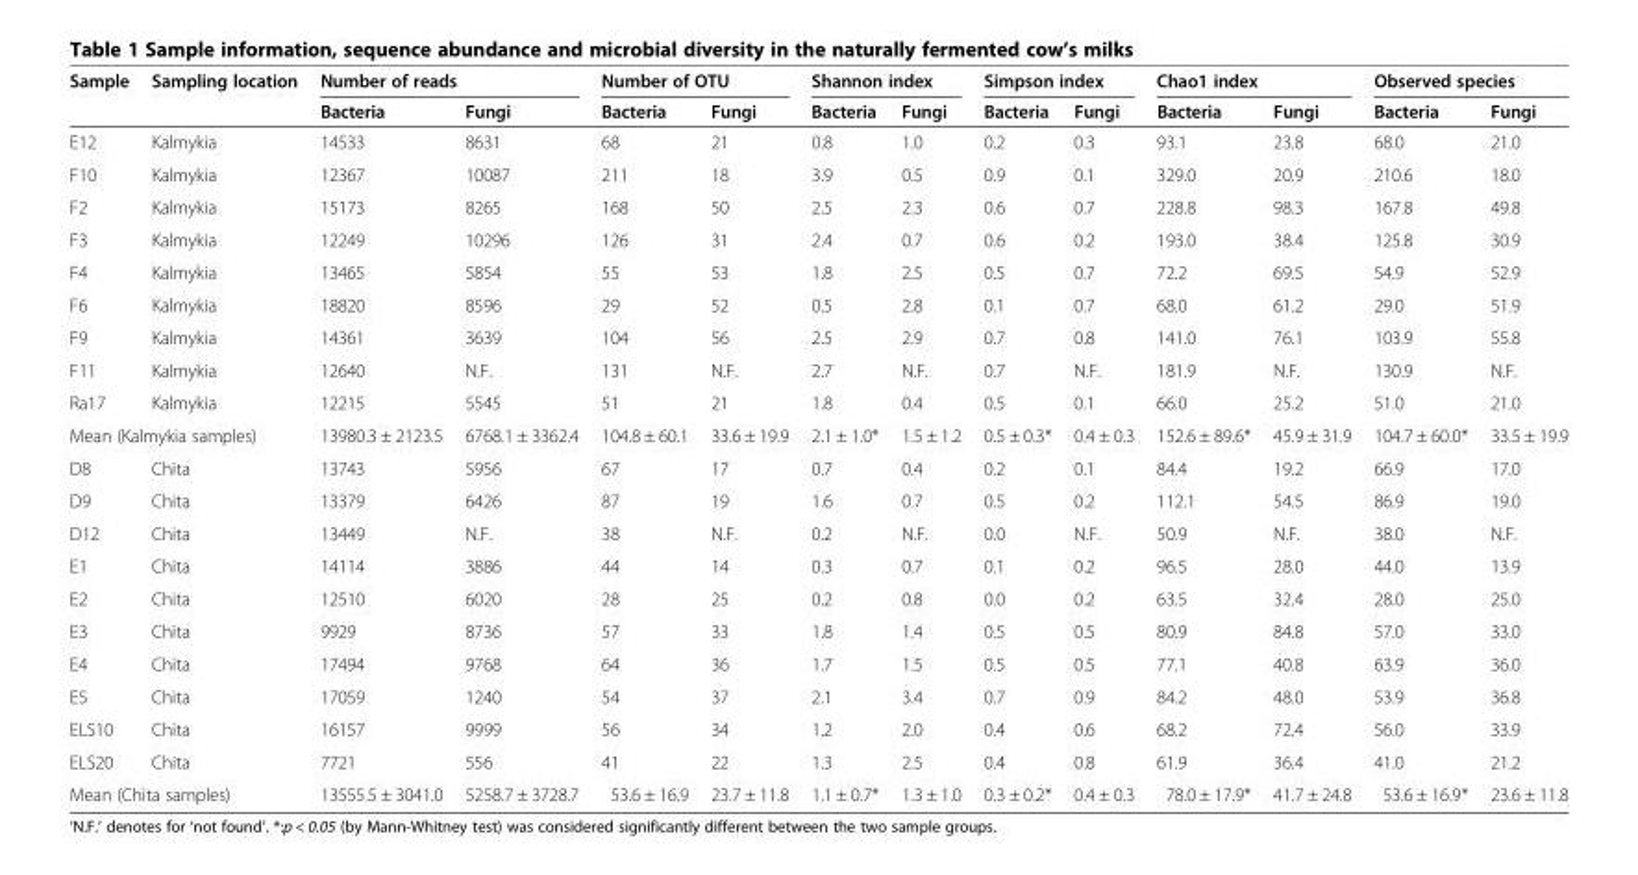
<table><thead><tr><td rowspan="2">Sample</td><td rowspan="2">Sampling location</td><td colspan="2">Number of reads</td><td colspan="2">Number of OTU</td><td colspan="2">Shannon index</td><td colspan="2">Simpson index</td><td colspan="2">Chao1 index</td><td colspan="2">Observed species</td></tr><tr><td>Bacteria</td><td>Fungi</td><td>Bacteria</td><td>Fungi</td><td>Bacteria</td><td>Fungi</td><td>Bacteria</td><td>Fungi</td><td>Bacteria</td><td>Fungi</td><td>Bacteria</td><td>Fungi</td></tr></thead><tbody><tr><td>E12</td><td>Kalmykia</td><td>14533</td><td>8631</td><td>68</td><td>21</td><td>0.8</td><td>1.0</td><td>0.2</td><td>0.3</td><td>93.1</td><td>23.8</td><td>68.0</td><td>21.0</td></tr><tr><td>F10</td><td>Kalmykia</td><td>12367</td><td>10087</td><td>211</td><td>18</td><td>3.9</td><td>0.5</td><td>0.9</td><td>0.1</td><td>329.0</td><td>20.9</td><td>210.6</td><td>18.0</td></tr><tr><td>F2</td><td>Kalmykia</td><td>15173</td><td>8265</td><td>168</td><td>50</td><td>2.5</td><td>2.3</td><td>0.6</td><td>0.7</td><td>228.8</td><td>98.3</td><td>167.8</td><td>49.8</td></tr><tr><td>F3</td><td>Kalmykia</td><td>12249</td><td>10296</td><td>126</td><td>31</td><td>2.4</td><td>0.7</td><td>0.6</td><td>0.2</td><td>193.0</td><td>38.4</td><td>125.8</td><td>30.9</td></tr><tr><td>F4</td><td>Kalmykia</td><td>13465</td><td>5854</td><td>55</td><td>53</td><td>1.8</td><td>2.5</td><td>0.5</td><td>0.7</td><td>72.2</td><td>69.5</td><td>54.9</td><td>52.9</td></tr><tr><td>F6</td><td>Kalmykia</td><td>18820</td><td>8596</td><td>29</td><td>52</td><td>0.5</td><td>2.8</td><td>0.1</td><td>0.7</td><td>68.0</td><td>61.2</td><td>29.0</td><td>51.9</td></tr><tr><td>F9</td><td>Kalmykia</td><td>14361</td><td>3639</td><td>104</td><td>56</td><td>2.5</td><td>2.9</td><td>0.7</td><td>0.8</td><td>141.0</td><td>76.1</td><td>103.9</td><td>55.8</td></tr><tr><td>F11</td><td>Kalmykia</td><td>12640</td><td>N.F.</td><td>131</td><td>N.F.</td><td>2.7</td><td>N.F.</td><td>0.7</td><td>N.F.</td><td>181.9</td><td>N.F.</td><td>130.9</td><td>N.F.</td></tr><tr><td>Ra17</td><td>Kalmykia</td><td>12215</td><td>5545</td><td>51</td><td>21</td><td>1.8</td><td>0.4</td><td>0.5</td><td>0.1</td><td>66.0</td><td>25.2</td><td>51.0</td><td>21.0</td></tr><tr><td colspan="2">Mean (Kalmykia samples)</td><td>13980.3 ± 2123.5</td><td>6768.1 ± 3362.4</td><td>104.8 ± 60.1</td><td>33.6 ± 19.9</td><td>2.1 ± 1.0*</td><td>1.5 ± 1.2</td><td>0.5 ± 0.3*</td><td>0.4 ± 0.3</td><td>152.6 ± 89.6*</td><td>45.9 ± 31.9</td><td>104.7 ± 60.0*</td><td>33.5 ± 19.9</td></tr><tr><td>D8</td><td>Chita</td><td>13743</td><td>5956</td><td>67</td><td>17</td><td>0.7</td><td>0.4</td><td>0.2</td><td>0.1</td><td>84.4</td><td>19.2</td><td>66.9</td><td>17.0</td></tr><tr><td>D9</td><td>Chita</td><td>13379</td><td>6426</td><td>87</td><td>19</td><td>1.6</td><td>0.7</td><td>0.5</td><td>0.2</td><td>112.1</td><td>54.5</td><td>86.9</td><td>19.0</td></tr><tr><td>D12</td><td>Chita</td><td>13449</td><td>N.F.</td><td>38</td><td>N.F.</td><td>0.2</td><td>N.F.</td><td>0.0</td><td>N.F.</td><td>50.9</td><td>N.F.</td><td>38.0</td><td>N.F.</td></tr><tr><td>E1</td><td>Chita</td><td>14114</td><td>3886</td><td>44</td><td>14</td><td>0.3</td><td>0.7</td><td>0.1</td><td>0.2</td><td>96.5</td><td>28.0</td><td>44.0</td><td>13.9</td></tr><tr><td>E2</td><td>Chita</td><td>12510</td><td>6020</td><td>28</td><td>25</td><td>0.2</td><td>0.8</td><td>0.0</td><td>0.2</td><td>63.5</td><td>32.4</td><td>28.0</td><td>25.0</td></tr><tr><td>E3</td><td>Chita</td><td>9929</td><td>8736</td><td>57</td><td>33</td><td>1.8</td><td>1.4</td><td>0.5</td><td>0.5</td><td>80.9</td><td>84.8</td><td>57.0</td><td>33.0</td></tr><tr><td>E4</td><td>Chita</td><td>17494</td><td>9768</td><td>64</td><td>36</td><td>1.7</td><td>1.5</td><td>0.5</td><td>0.5</td><td>77.1</td><td>40.8</td><td>63.9</td><td>36.0</td></tr><tr><td>E5</td><td>Chita</td><td>17059</td><td>1240</td><td>54</td><td>37</td><td>2.1</td><td>3.4</td><td>0.7</td><td>0.9</td><td>84.2</td><td>48.0</td><td>53.9</td><td>36.8</td></tr><tr><td>ELS10</td><td>Chita</td><td>16157</td><td>9999</td><td>56</td><td>34</td><td>1.2</td><td>2.0</td><td>0.4</td><td>0.6</td><td>68.2</td><td>72.4</td><td>56.0</td><td>33.9</td></tr><tr><td>ELS20</td><td>Chita</td><td>7721</td><td>556</td><td>41</td><td>22</td><td>1.3</td><td>2.5</td><td>0.4</td><td>0.8</td><td>61.9</td><td>36.4</td><td>41.0</td><td>21.2</td></tr><tr><td colspan="2">Mean (Chita samples)</td><td>13555.5 ± 3041.0</td><td>5258.7 ± 3728.7</td><td>53.6 ± 16.9</td><td>23.7 ± 11.8</td><td>1.1 ± 0.7*</td><td>1.3 ± 1.0</td><td>0.3 ± 0.2*</td><td>0.4 ± 0.3</td><td>78.0 ± 17.9*</td><td>41.7 ± 24.8</td><td>53.6 ± 16.9*</td><td>23.6 ± 11.8</td></tr></tbody></table>